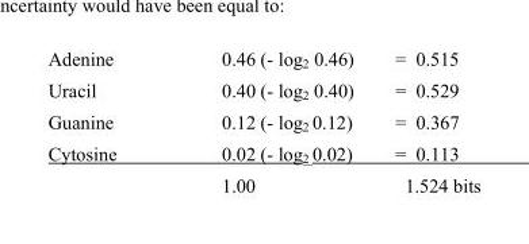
<table><tbody><tr><td>Adenine</td><td>0.46 (- log<sub>2</sub> 0.46)</td><td>= 0.515</td></tr><tr><td>Uracil</td><td>0.40 (- log<sub>2</sub> 0.40)</td><td>= 0.529</td></tr><tr><td>Guanine</td><td>0.12 (- log<sub>2</sub> 0.12)</td><td>= 0.367</td></tr><tr><td rowspan="2">Cytosine</td><td>0.02 (- log<sub>2</sub> 0.02)</td><td>= 0.113</td></tr><tr><td>1.00</td><td>1.524 bits</td></tr></tbody></table>